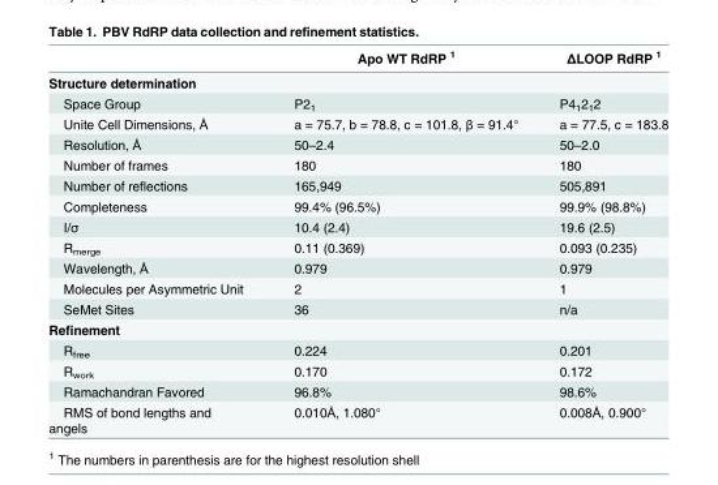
<table><thead><tr><td></td><td>Apo WT RdRP <sup>1</sup></td><td>ΔLOOP RdRP <sup>1</sup></td></tr></thead><tbody><tr><td colspan="3">Structure determination</td></tr><tr><td>Space Group</td><td>P2<sub>1</sub></td><td>P4<sub>1</sub>2<sub>1</sub>2</td></tr><tr><td>Unite Cell Dimensions, Å</td><td>a = 75.7, b = 78.8, c = 101.8, β = 91.4°</td><td>a = 77.5, c = 183.8</td></tr><tr><td>Resolution, Å</td><td>50–2.4</td><td>50–2.0</td></tr><tr><td>Number of frames</td><td>180</td><td>180</td></tr><tr><td>Number of reflections</td><td>165,949</td><td>505,891</td></tr><tr><td>Completeness</td><td>99.4% (96.5%)</td><td>99.9% (98.8%)</td></tr><tr><td>I/σ</td><td>10.4 (2.4)</td><td>19.6 (2.5)</td></tr><tr><td>R<sub>merge</sub></td><td>0.11 (0.369)</td><td>0.093 (0.235)</td></tr><tr><td>Wavelength, Å</td><td>0.979</td><td>0.979</td></tr><tr><td>Molecules per Asymmetric Unit</td><td>2</td><td>1</td></tr><tr><td>SeMet Sites</td><td>36</td><td>n/a</td></tr><tr><td colspan="3">Refinement</td></tr><tr><td>R<sub>free</sub></td><td>0.224</td><td>0.201</td></tr><tr><td>R<sub>work</sub></td><td>0.170</td><td>0.172</td></tr><tr><td>Ramachandran Favored</td><td>96.8%</td><td>98.6%</td></tr><tr><td>RMS of bond lengths and angels</td><td>0.010Å, 1.080°</td><td>0.008Å, 0.900°</td></tr></tbody></table>